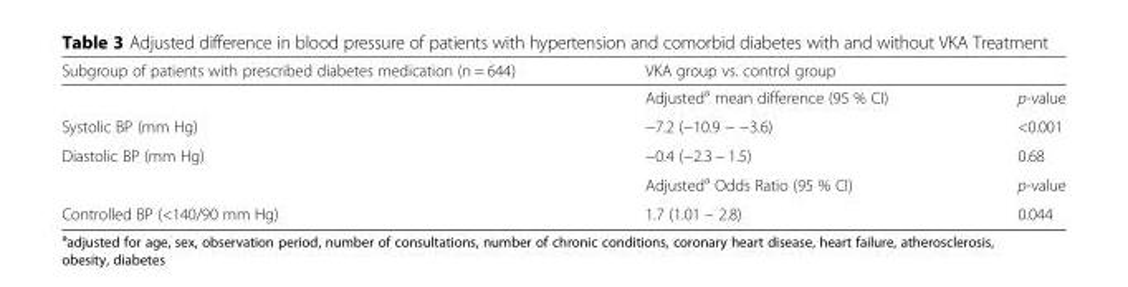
<table><thead><tr><td>Subgroup of patients with prescribed diabetes medication (n = 644)</td><td>VKA group vs. control group</td><td></td></tr></thead><tbody><tr><td></td><td>Adjusted<sup>a</sup> mean difference (95 % CI)</td><td>p-value</td></tr><tr><td>Systolic BP (mm Hg)</td><td>−7.2 (−10.9 − −3.6)</td><td>&lt;0.001</td></tr><tr><td rowspan="2">Diastolic BP (mm Hg)</td><td>−0.4 (−2.3 − 1.5)</td><td>0.68</td></tr><tr><td>Adjusted<sup>a</sup> Odds Ratio (95 % CI)</td><td>p-value</td></tr><tr><td>Controlled BP (&lt;140/90 mm Hg)</td><td>1.7 (1.01 – 2.8)</td><td>0.044</td></tr></tbody></table>